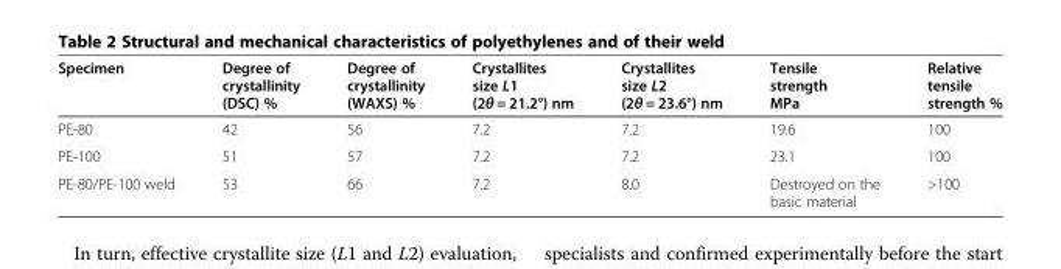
<table><thead><tr><td>Specimen</td><td>Degree of crystallinity (DSC) %</td><td>Degree of crystallinity (WAXS) %</td><td>Crystallites size L1 (2θ = 21.2°) nm</td><td>Crystallites size L2 (2θ = 23.6°) nm</td><td>Tensile strength MPa</td><td>Relative tensile strength %</td></tr></thead><tbody><tr><td>PE-80</td><td>42</td><td>56</td><td>7.2</td><td>7.2</td><td>19.6</td><td>100</td></tr><tr><td>PE-100</td><td>51</td><td>57</td><td>7.2</td><td>7.2</td><td>23.1</td><td>100</td></tr><tr><td>PE-80/PE-100 weld</td><td>53</td><td>66</td><td>7.2</td><td>8.0</td><td>Destroyed on the basic material</td><td>&gt;100</td></tr></tbody></table>